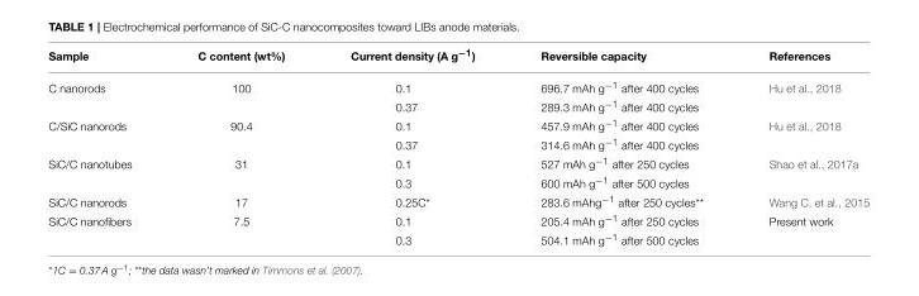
<table><thead><tr><td>Sample</td><td>C content (wt%)</td><td>Current density (A g<sup>−1</sup>)</td><td>Reversible capacity</td><td>References</td></tr></thead><tbody><tr><td rowspan="2">C nanorods</td><td>100</td><td>0.1</td><td>696.7 mAh g<sup>−1</sup> after 400 cycles</td><td>Hu et al., 2018</td></tr><tr><td></td><td>0.37</td><td>289.3 mAh g<sup>−1</sup> after 400 cycles</td><td></td></tr><tr><td rowspan="2">C/SiC nanorods</td><td>90.4</td><td>0.1</td><td>457.9 mAh g<sup>−1</sup> after 400 cycles</td><td>Hu et al., 2018</td></tr><tr><td></td><td>0.37</td><td>314.6 mAh g<sup>−1</sup> after 400 cycles</td><td></td></tr><tr><td rowspan="2">SiC/C nanotubes</td><td>31</td><td>0.1</td><td>527 mAh g<sup>−1</sup> after 250 cycles</td><td>Shao et al., 2017a</td></tr><tr><td></td><td>0.3</td><td>600 mAh g<sup>−1</sup> after 500 cycles</td><td></td></tr><tr><td>SiC/C nanorods</td><td>17</td><td>0.25C*</td><td>283.6 mAhg<sup>−1</sup> after 250 cycles**</td><td>Wang C. et al., 2015</td></tr><tr><td rowspan="2">SiC/C nanofibers</td><td>7.5</td><td>0.1</td><td>205.4 mAh g<sup>−1</sup> after 250 cycles</td><td>Present work</td></tr><tr><td></td><td>0.3</td><td>504.1 mAh g<sup>−1</sup> after 500 cycles</td><td></td></tr></tbody></table>